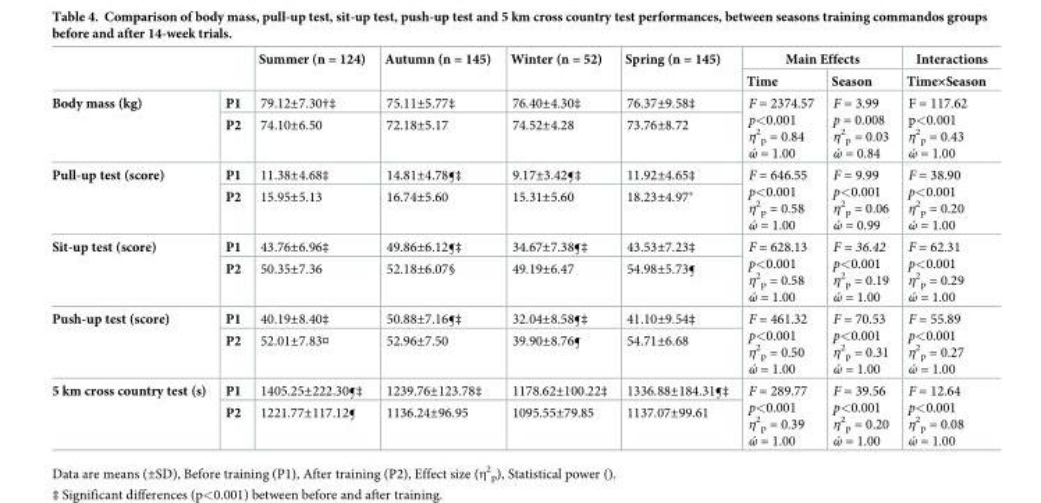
<table><thead><tr><td rowspan="2"></td><td rowspan="2"></td><td rowspan="2">Summer (n = 124)</td><td rowspan="2">Autumn (n = 145)</td><td rowspan="2">Winter (n = 52)</td><td rowspan="2">Spring (n = 145)</td><td colspan="2">Main Effects</td><td rowspan="2">Interactions Time×Season</td></tr><tr><td>Time</td><td>Season</td></tr></thead><tbody><tr><td rowspan="2">Body mass (kg)</td><td>P1</td><td>79.12±7.30†‡</td><td>75.11±5.77‡</td><td>76.40±4.30‡</td><td>76.37±9.58‡</td><td rowspan="2">F = 2374.57 p&lt;0.001 η2 p = 0.84 ώ = 1.00</td><td rowspan="2">F = 3.99 p = 0.008 η2 p = 0.03 ώ = 0.84</td><td rowspan="2">F = 117.62 p&lt;0.001 η2 p = 0.43 ώ = 1.00</td></tr><tr><td>P2</td><td>74.10±6.50</td><td>72.18±5.17</td><td>74.52±4.28</td><td>73.76±8.72</td></tr><tr><td rowspan="2">Pull-up test (score)</td><td>P1</td><td>11.38±4.68‡</td><td>14.81±4.78¶‡</td><td>9.17±3.42¶‡</td><td>11.92±4.65‡</td><td rowspan="2">F = 646.55 p&lt;0.001 η2 p = 0.58 ώ = 1.00</td><td rowspan="2">F = 9.99 p&lt;0.001 η2 p = 0.06 ώ = 0.99</td><td rowspan="2">F = 38.90 p&lt;0.001 η2 p = 0.20 ώ = 1.00</td></tr><tr><td>P2</td><td>15.95±5.13</td><td>16.74±5.60</td><td>15.31±5.60</td><td>18.23±4.97*</td></tr><tr><td rowspan="2">Sit-up test (score)</td><td>P1</td><td>43.76±6.96‡</td><td>49.86±6.12¶‡</td><td>34.67±7.38¶‡</td><td>43.53±7.23‡</td><td rowspan="2">F = 628.13 p&lt;0.001 η2 p = 0.58 ώ = 1.00</td><td rowspan="2">F = 36.42 p&lt;0.001 η2 p = 0.19 ώ = 1.00</td><td rowspan="2">F = 62.31 p&lt;0.001 η2 p = 0.29 ώ = 1.00</td></tr><tr><td>P2</td><td>50.35±7.36</td><td>52.18±6.07§</td><td>49.19±6.47</td><td>54.98±5.73¶</td></tr><tr><td rowspan="2">Push-up test (score)</td><td>P1</td><td>40.19±8.40‡</td><td>50.88±7.16¶‡</td><td>32.04±8.58¶‡</td><td>41.10±9.54‡</td><td rowspan="2">F = 461.32 p&lt;0.001 η2 p = 0.50 ώ = 1.00</td><td rowspan="2">F = 70.53 p&lt;0.001 η2 p = 0.31 ώ = 1.00</td><td rowspan="2">F = 55.89 p&lt;0.001 η2 p = 0.27 ώ = 1.00</td></tr><tr><td>P2</td><td>52.01±7.83¤</td><td>52.96±7.50</td><td>39.90±8.76¶</td><td>54.71±6.68</td></tr><tr><td rowspan="2">5 km cross country test (s)</td><td>P1</td><td>1405.25±222.30¶‡</td><td>1239.76±123.78‡</td><td>1178.62±100.22‡</td><td>1336.88±184.31¶‡</td><td rowspan="2">F = 289.77 p&lt;0.001 η2 p = 0.39 ώ = 1.00</td><td rowspan="2">F = 39.56 p&lt;0.001 η2 p = 0.20 ώ = 1.00</td><td rowspan="2">F = 12.64 p&lt;0.001 η2 p = 0.08 ώ = 1.00</td></tr><tr><td>P2</td><td>1221.77±117.12¶</td><td>1136.24±96.95</td><td>1095.55±79.85</td><td>1137.07±99.61</td></tr></tbody></table>